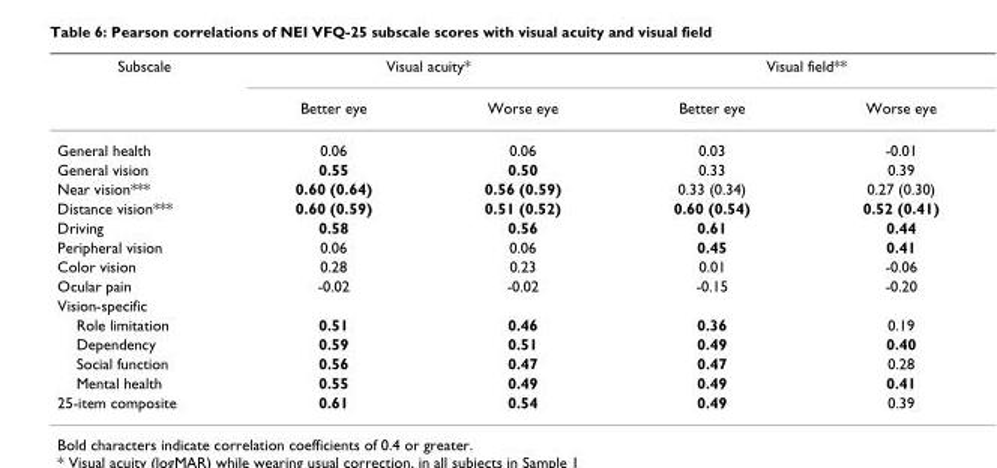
<table><thead><tr><td rowspan="2">Subscale</td><td colspan="2">Visual acuity*</td><td colspan="2">Visual field**</td></tr><tr><td>Better eye</td><td>Worse eye</td><td>Better eye</td><td>Worse eye</td></tr></thead><tbody><tr><td>General health</td><td>0.06</td><td>0.06</td><td>0.03</td><td>-0.01</td></tr><tr><td>General vision</td><td>0.55</td><td>0.50</td><td>0.33</td><td>0.39</td></tr><tr><td>Near vision***</td><td>0.60 (0.64)</td><td>0.56 (0.59)</td><td>0.33 (0.34)</td><td>0.27 (0.30)</td></tr><tr><td>Distance vision***</td><td>0.60 (0.59)</td><td>0.51 (0.52)</td><td>0.60 (0.54)</td><td>0.52 (0.41)</td></tr><tr><td>Driving</td><td>0.58</td><td>0.56</td><td>0.61</td><td>0.44</td></tr><tr><td>Peripheral vision</td><td>0.06</td><td>0.06</td><td>0.45</td><td>0.41</td></tr><tr><td>Color vision</td><td>0.28</td><td>0.23</td><td>0.01</td><td>-0.06</td></tr><tr><td>Ocular pain</td><td>-0.02</td><td>-0.02</td><td>-0.15</td><td>-0.20</td></tr><tr><td colspan="5">Vision-specific</td></tr><tr><td>Role limitation</td><td>0.51</td><td>0.46</td><td>0.36</td><td>0.19</td></tr><tr><td>Dependency</td><td>0.59</td><td>0.51</td><td>0.49</td><td>0.40</td></tr><tr><td>Social function</td><td>0.56</td><td>0.47</td><td>0.47</td><td>0.28</td></tr><tr><td>Mental health</td><td>0.55</td><td>0.49</td><td>0.49</td><td>0.41</td></tr><tr><td>25-item composite</td><td>0.61</td><td>0.54</td><td>0.49</td><td>0.39</td></tr></tbody></table>